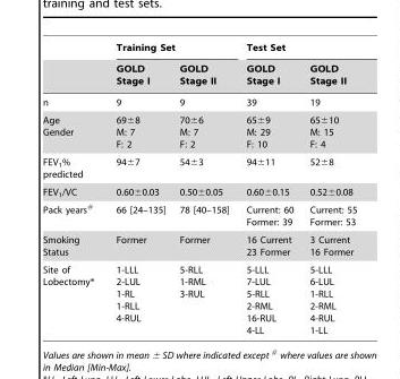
<table><thead><tr><td rowspan="2"></td><td colspan="2">Training Set</td><td colspan="2">Test Set</td></tr><tr><td>GOLD Stage I</td><td>GOLD Stage II</td><td>GOLD Stage I</td><td>GOLD Stage II</td></tr></thead><tbody><tr><td>n</td><td>9</td><td>9</td><td>39</td><td>19</td></tr><tr><td>Age Gender</td><td>69±8 M: 7 F: 2</td><td>70±6 M: 7 F: 2</td><td>65±9 M: 29 F: 10</td><td>65±10 M: 15 F: 4</td></tr><tr><td>FEV<sub>1</sub>% predicted</td><td>94±7</td><td>54±3</td><td>94±11</td><td>52±8</td></tr><tr><td>FEV<sub>1</sub>/VC</td><td>0.60±0.03</td><td>0.50±0.05</td><td>0.60±0.15</td><td>0.52±0.08</td></tr><tr><td>Pack years#</td><td>66 [24–135]</td><td>78 [40–158]</td><td>Current: 60 Former: 39</td><td>Current: 55 Former: 53</td></tr><tr><td>Smoking Status</td><td>Former</td><td>Former</td><td>16 Current 23 Former</td><td>3 Current 16 Former</td></tr><tr><td>Site of Lobectomy*</td><td>1-LLL 2-LUL 1-RL 1-RLL 4-RUL</td><td>5-RLL 1-RML 3-RUL</td><td>5-LLL 7-LUL 5-RLL 2-RML 16-RUL 4-LL</td><td>5-LLL 6-LUL 1-RLL 2-RML 4-RUL 1-LL</td></tr></tbody></table>